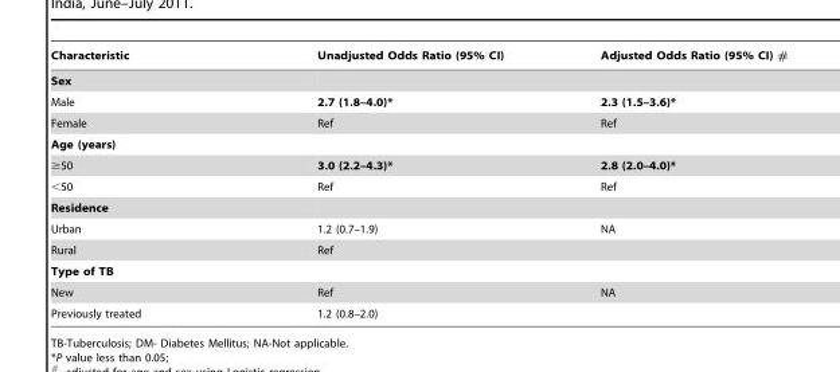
<table><thead><tr><td>Characteristic</td><td>Unadjusted Odds Ratio (95% CI)</td><td>Adjusted Odds Ratio (95% CI) #</td></tr></thead><tbody><tr><td colspan="3">Sex</td></tr><tr><td>Male</td><td>2.7 (1.8–4.0)*</td><td>2.3 (1.5–3.6)*</td></tr><tr><td>Female</td><td>Ref</td><td>Ref</td></tr><tr><td colspan="3">Age (years)</td></tr><tr><td>≥50</td><td>3.0 (2.2–4.3)*</td><td>2.8 (2.0–4.0)*</td></tr><tr><td>&lt;50</td><td>Ref</td><td>Ref</td></tr><tr><td colspan="3">Residence</td></tr><tr><td>Urban</td><td>1.2 (0.7–1.9)</td><td>NA</td></tr><tr><td>Rural</td><td>Ref</td><td></td></tr><tr><td colspan="3">Type of TB</td></tr><tr><td>New</td><td>Ref</td><td>NA</td></tr><tr><td>Previously treated</td><td>1.2 (0.8–2.0)</td><td></td></tr></tbody></table>